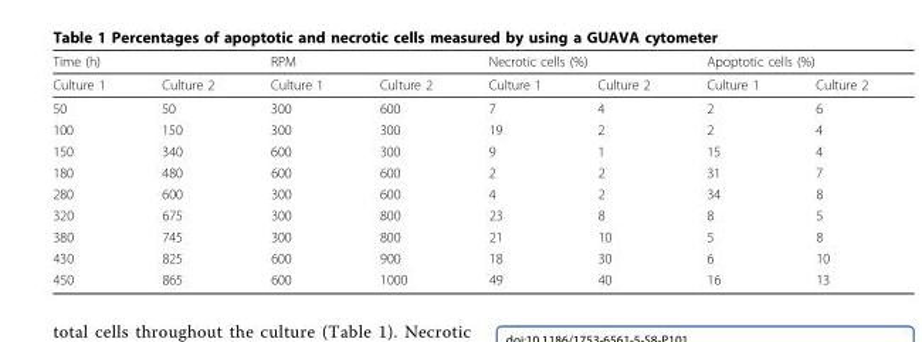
<table><thead><tr><td colspan="2">Time (h)</td><td colspan="2">RPM</td><td colspan="2">Necrotic cells (%)</td><td colspan="2">Apoptotic cells (%)</td></tr><tr><td>Culture 1</td><td>Culture 2</td><td>Culture 1</td><td>Culture 2</td><td>Culture 1</td><td>Culture 2</td><td>Culture 1</td><td>Culture 2</td></tr></thead><tbody><tr><td>50</td><td>50</td><td>300</td><td>600</td><td>7</td><td>4</td><td>2</td><td>6</td></tr><tr><td>100</td><td>150</td><td>300</td><td>300</td><td>19</td><td>2</td><td>2</td><td>4</td></tr><tr><td>150</td><td>340</td><td>600</td><td>300</td><td>9</td><td>1</td><td>15</td><td>4</td></tr><tr><td>180</td><td>480</td><td>600</td><td>600</td><td>2</td><td>2</td><td>31</td><td>7</td></tr><tr><td>280</td><td>600</td><td>300</td><td>600</td><td>4</td><td>2</td><td>34</td><td>8</td></tr><tr><td>320</td><td>675</td><td>300</td><td>800</td><td>23</td><td>8</td><td>8</td><td>5</td></tr><tr><td>380</td><td>745</td><td>300</td><td>800</td><td>21</td><td>10</td><td>5</td><td>8</td></tr><tr><td>430</td><td>825</td><td>600</td><td>900</td><td>18</td><td>30</td><td>6</td><td>10</td></tr><tr><td>450</td><td>865</td><td>600</td><td>1000</td><td>49</td><td>40</td><td>16</td><td>13</td></tr></tbody></table>